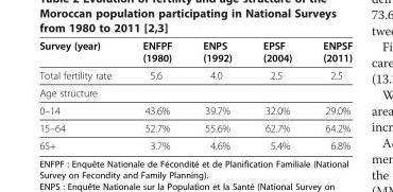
<table><thead><tr><td>Survey (year)</td><td>ENFPF (1980)</td><td>ENPS (1992)</td><td>EPSF (2004)</td><td>ENPSF (2011)</td></tr></thead><tbody><tr><td>Total fertility rate</td><td>5.6</td><td>4.0</td><td>2.5</td><td>2.5</td></tr><tr><td colspan="5">Age structure</td></tr><tr><td>0–14</td><td>43.6%</td><td>39.7%</td><td>32.0%</td><td>29.0%</td></tr><tr><td>15–64</td><td>52.7%</td><td>55.6%</td><td>62.7%</td><td>64.2%</td></tr><tr><td>65+</td><td>3.7%</td><td>4.6%</td><td>5.4%</td><td>6.8%</td></tr></tbody></table>